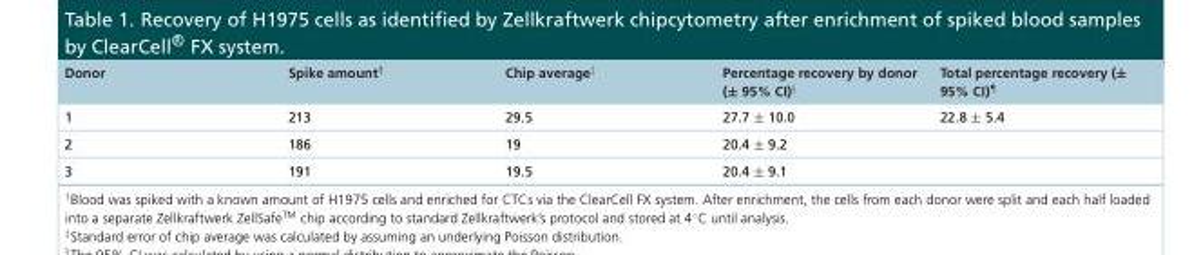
<table><thead><tr><td>Donor</td><td>Spike amount<sup>†</sup></td><td>Chip average<sup>‡</sup></td><td>Percentage recovery by donor (± 95% CI)<sup>§</sup></td><td>Total percentage recovery (± 95% CI)<sup>¶</sup></td></tr></thead><tbody><tr><td>1</td><td>213</td><td>29.5</td><td>27.7 ± 10.0</td><td>22.8 ± 5.4</td></tr><tr><td>2</td><td>186</td><td>19</td><td>20.4 ± 9.2</td><td></td></tr><tr><td>3</td><td>191</td><td>19.5</td><td>20.4 ± 9.1</td><td></td></tr></tbody></table>